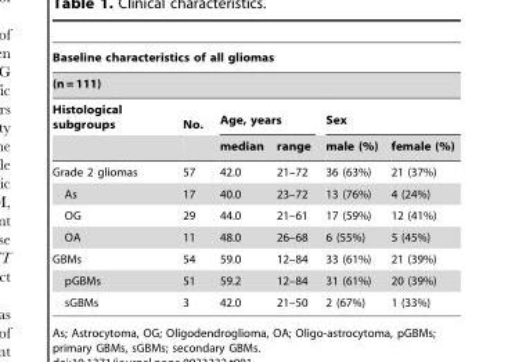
<table><thead><tr><td rowspan="2" colspan="6">Baseline characteristics of all gliomas (n = 111)</td></tr><tr></tr><tr><td rowspan="2">Histological subgroups</td><td rowspan="2">No.</td><td colspan="2">Age, years</td><td colspan="2">Sex</td></tr><tr><td>median</td><td>range</td><td>male (%)</td><td>female (%)</td></tr></thead><tbody><tr><td>Grade 2 gliomas</td><td>57</td><td>42.0</td><td>21–72</td><td>36 (63%)</td><td>21 (37%)</td></tr><tr><td>As</td><td>17</td><td>40.0</td><td>23–72</td><td>13 (76%)</td><td>4 (24%)</td></tr><tr><td>OG</td><td>29</td><td>44.0</td><td>21–61</td><td>17 (59%)</td><td>12 (41%)</td></tr><tr><td>OA</td><td>11</td><td>48.0</td><td>26–68</td><td>6 (55%)</td><td>5 (45%)</td></tr><tr><td>GBMs</td><td>54</td><td>59.0</td><td>12–84</td><td>33 (61%)</td><td>21 (39%)</td></tr><tr><td>pGBMs</td><td>51</td><td>59.2</td><td>12–84</td><td>31 (61%)</td><td>20 (39%)</td></tr><tr><td>sGBMs</td><td>3</td><td>42.0</td><td>21–50</td><td>2 (67%)</td><td>1 (33%)</td></tr></tbody></table>